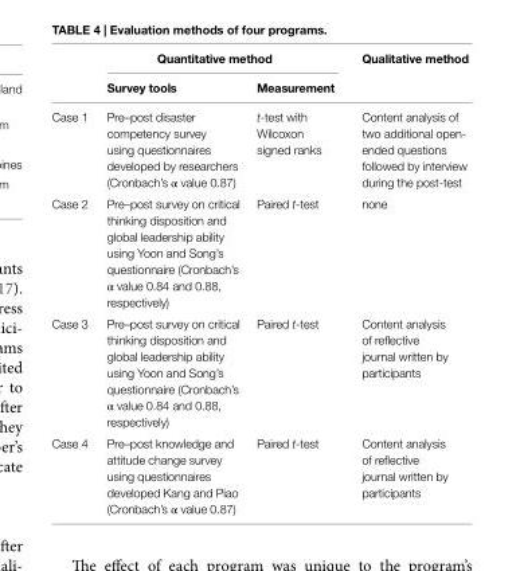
<table><thead><tr><td rowspan="2"></td><td colspan="2">Quantitative method</td><td rowspan="2">Qualitative method</td></tr><tr><td>survey tools</td><td>Measurement</td></tr></thead><tbody><tr><td>Case 1</td><td>Pre–post disaster competency survey using questionnaires developed by researchers (Cronbach’s α value 0.87)</td><td>t-test with Wilcoxon signed ranks</td><td>Content analysis of two additional open- ended questions followed by interview during the post-test</td></tr><tr><td>Case 2</td><td>Pre–post survey on critical thinking disposition and global leadership ability using Yoon and Song’s questionnaire (Cronbach’s α value 0.84 and 0.88, respectively)</td><td>Paired t-test</td><td>none</td></tr><tr><td>Case 3</td><td>Pre–post survey on critical thinking disposition and global leadership ability using Yoon and Song’s questionnaire (Cronbach’s α value 0.84 and 0.88, respectively)</td><td>Paired t-test</td><td>Content analysis of reflective journal written by participants</td></tr><tr><td>Case 4</td><td>Pre–post knowledge and attitude change survey using questionnaires developed Kang and Piao (Cronbach’s α value 0.87)</td><td>Paired t-test</td><td>Content analysis of reflective journal written by participants</td></tr></tbody></table>